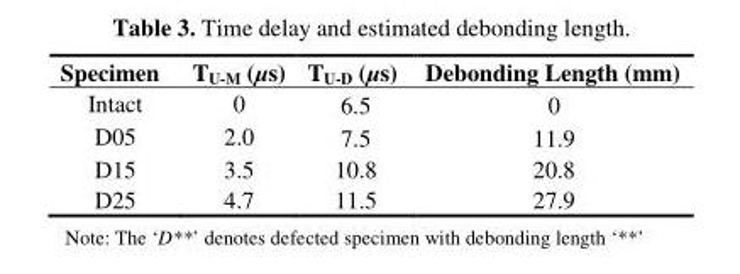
<table><thead><tr><td>Specimen</td><td>T<sub>U-M</sub> (µs)</td><td>T<sub>U-D</sub> (µs)</td><td>Debonding Length (mm)</td></tr></thead><tbody><tr><td>Intact</td><td>0</td><td>6.5</td><td>0</td></tr><tr><td>D05</td><td>2.0</td><td>7.5</td><td>11.9</td></tr><tr><td>D15</td><td>3.5</td><td>10.8</td><td>20.8</td></tr><tr><td>D25</td><td>4.7</td><td>11.5</td><td>27.9</td></tr></tbody></table>